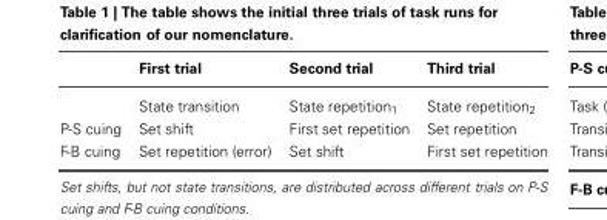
<table><thead><tr><td></td><td>First trial</td><td>Second trial</td><td>Third trial</td></tr></thead><tbody><tr><td></td><td>State transition</td><td>State repetition<sub>1</sub></td><td>State repetition<sub>2</sub></td></tr><tr><td>P-S cuing</td><td>Set shift</td><td>First set repetition</td><td>Set repetition</td></tr><tr><td>F-B cuing</td><td>Set repetition (error)</td><td>Set shift</td><td>First set repetition</td></tr></tbody></table>